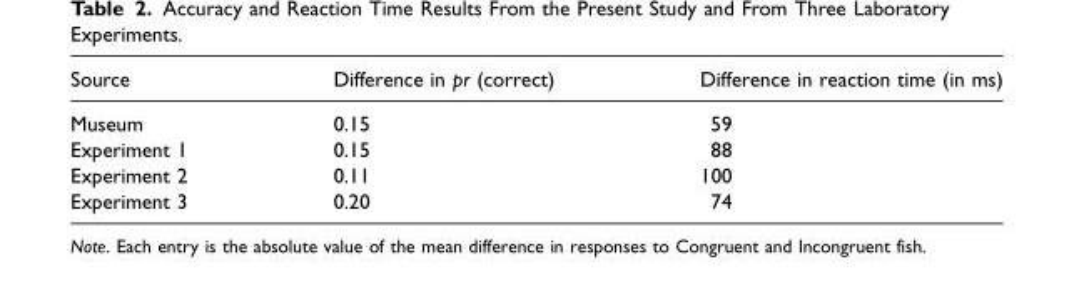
<table><thead><tr><td>Source</td><td>Difference in pr (correct)</td><td>Difference in reaction time (in ms)</td></tr></thead><tbody><tr><td>Museum</td><td>0.15</td><td>59</td></tr><tr><td>Experiment 1</td><td>0.15</td><td>88</td></tr><tr><td>Experiment 2</td><td>0.11</td><td>100</td></tr><tr><td>Experiment 3</td><td>0.20</td><td>74</td></tr></tbody></table>